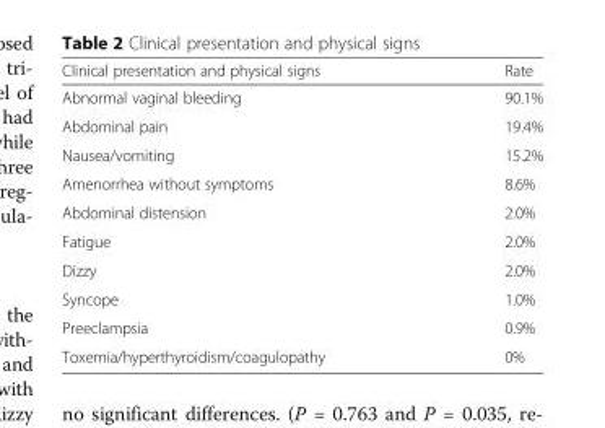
<table><thead><tr><td>Clinical presentation and physical signs</td><td>Rate</td></tr></thead><tbody><tr><td>Abnormal vaginal bleeding</td><td>90.1%</td></tr><tr><td>Abdominal pain</td><td>19.4%</td></tr><tr><td>Nausea/vomiting</td><td>15.2%</td></tr><tr><td>Amenorrhea without symptoms</td><td>8.6%</td></tr><tr><td>Abdominal distension</td><td>2.0%</td></tr><tr><td>Fatigue</td><td>2.0%</td></tr><tr><td>Dizzy</td><td>2.0%</td></tr><tr><td>Syncope</td><td>1.0%</td></tr><tr><td>Preeclampsia</td><td>0.9%</td></tr><tr><td>Toxemia/hyperthyroidism/coagulopathy</td><td>0%</td></tr></tbody></table>